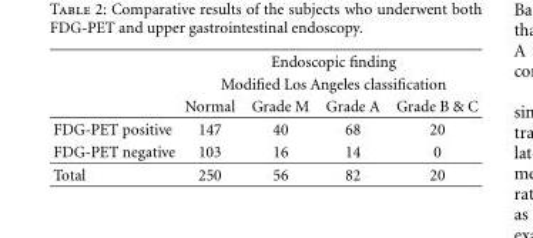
<table><thead><tr><td rowspan="3"></td><td rowspan="2" colspan="4">Endoscopic finding Modified Los Angeles classification</td></tr><tr></tr><tr><td>Normal</td><td>Grade M</td><td>Grade A</td><td>Grade B &amp; C</td></tr></thead><tbody><tr><td>FDG-PET positive</td><td>147</td><td>40</td><td>68</td><td>20</td></tr><tr><td>FDG-PET negative</td><td>103</td><td>16</td><td>14</td><td>0</td></tr><tr><td>Total</td><td>250</td><td>56</td><td>82</td><td>20</td></tr></tbody></table>